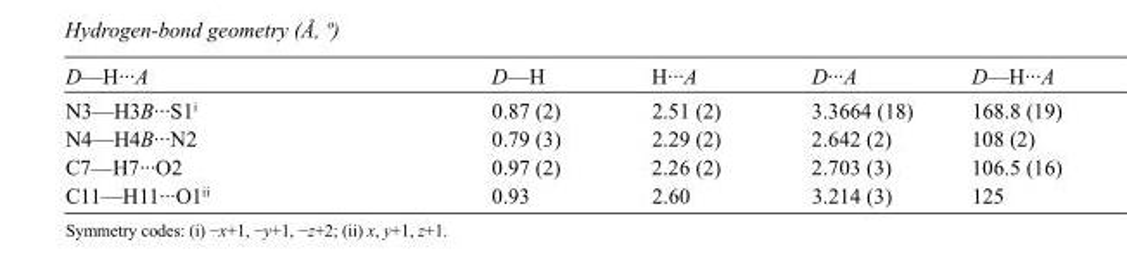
<table><tbody><tr><td>D—H···A</td><td>D—H</td><td>H···A</td><td>D···A</td><td>D—H···A</td></tr><tr><td>N3—H3B···S1<sup>i</sup></td><td>0.87 (2)</td><td>2.51 (2)</td><td>3.3664 (18)</td><td>168.8 (19)</td></tr><tr><td>N4—H4B···N2</td><td>0.79 (3)</td><td>2.29 (2)</td><td>2.642 (2)</td><td>108 (2)</td></tr><tr><td>C7—H7···O2</td><td>0.97 (2)</td><td>2.26 (2)</td><td>2.703 (3)</td><td>106.5 (16)</td></tr><tr><td>C11—H11···O1<sup>ii</sup></td><td>0.93</td><td>2.60</td><td>3.214 (3)</td><td>125</td></tr></tbody></table>